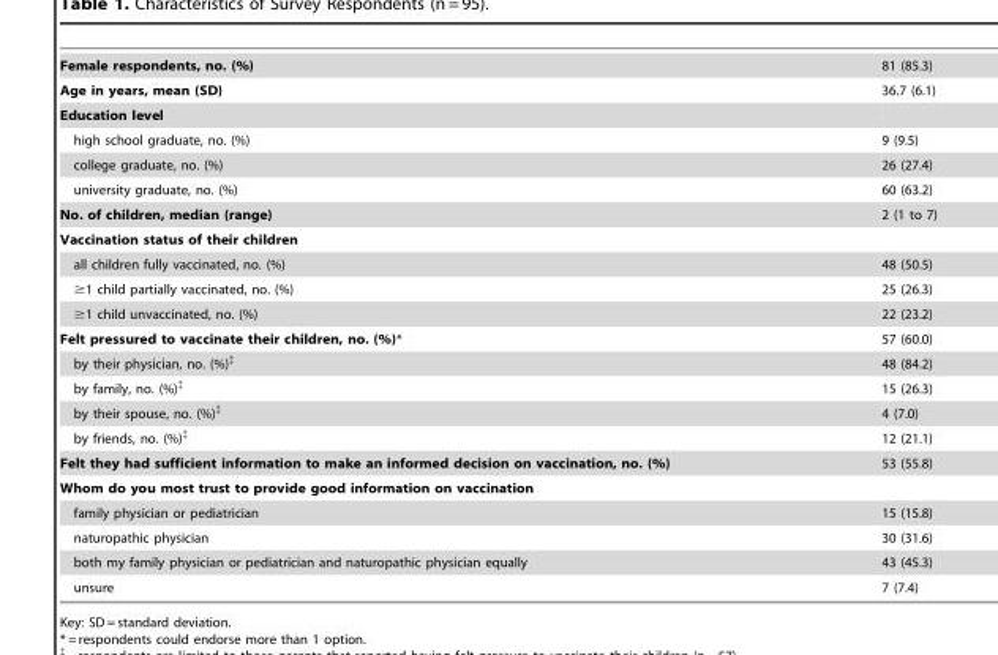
<table><tbody><tr><td>Female respondents, no. (%)</td><td>81 (85.3)</td></tr><tr><td>Age in years, mean (SD)</td><td>36.7 (6.1)</td></tr><tr><td colspan="2">Education level</td></tr><tr><td>high school graduate, no. (%)</td><td>9 (9.5)</td></tr><tr><td>college graduate, no. (%)</td><td>26 (27.4)</td></tr><tr><td>university graduate, no. (%)</td><td>60 (63.2)</td></tr><tr><td>No. of children, median (range)</td><td>2 (1 to 7)</td></tr><tr><td colspan="2">Vaccination status of their children</td></tr><tr><td>all children fully vaccinated, no. (%)</td><td>48 (50.5)</td></tr><tr><td>≥1 child partially vaccinated, no. (%)</td><td>25 (26.3)</td></tr><tr><td>≥1 child unvaccinated, no. (%)</td><td>22 (23.2)</td></tr><tr><td>Felt pressured to vaccinate their children, no. (%)*</td><td>57 (60.0)</td></tr><tr><td>by their physician, no. (%)‡</td><td>48 (84.2)</td></tr><tr><td>by family, no. (%)‡</td><td>15 (26.3)</td></tr><tr><td>by their spouse, no. (%)‡</td><td>4 (7.0)</td></tr><tr><td>by friends, no. (%)‡</td><td>12 (21.1)</td></tr><tr><td>Felt they had sufficient information to make an informed decision on vaccination, no. (%)</td><td>53 (55.8)</td></tr><tr><td colspan="2">Whom do you most trust to provide good information on vaccination</td></tr><tr><td>family physician or pediatrician</td><td>15 (15.8)</td></tr><tr><td>naturopathic physician</td><td>30 (31.6)</td></tr><tr><td>both my family physician or pediatrician and naturopathic physician equally</td><td>43 (45.3)</td></tr><tr><td>unsure</td><td>7 (7.4)</td></tr></tbody></table>